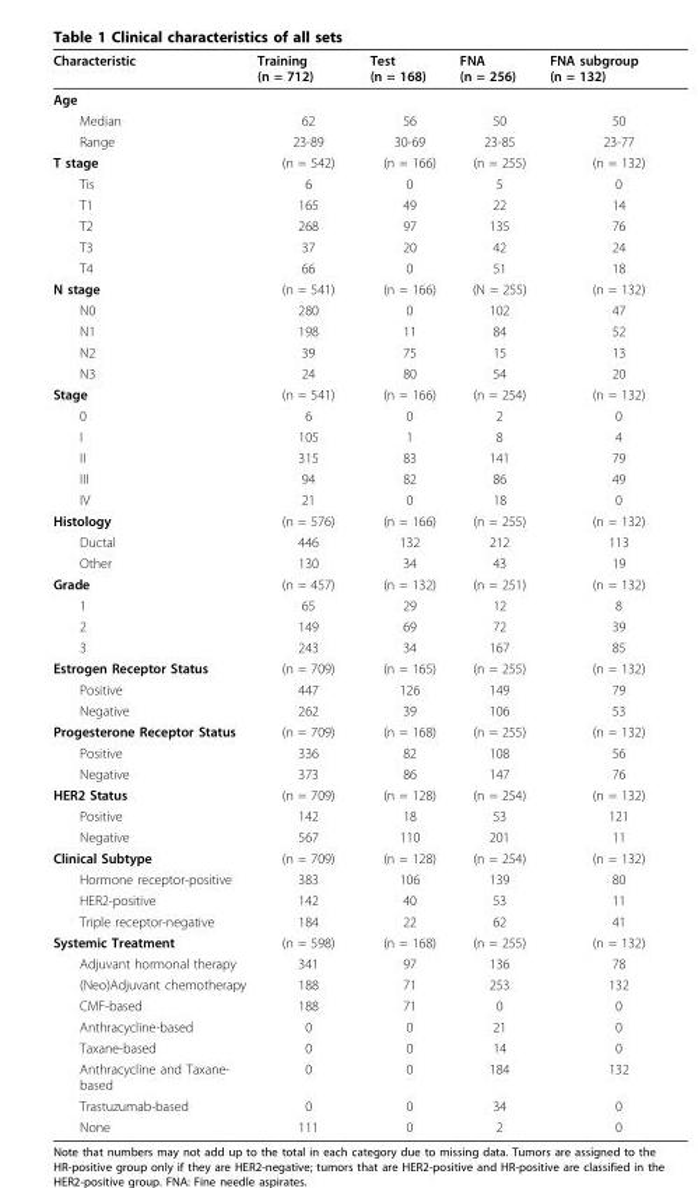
<table><thead><tr><td>Characteristic</td><td>Training (n = 712)</td><td>Test (n = 168)</td><td>FNA (n = 256)</td><td>FNA subgroup (n = 132)</td></tr></thead><tbody><tr><td colspan="5">Age</td></tr><tr><td>Median</td><td>62</td><td>56</td><td>50</td><td>50</td></tr><tr><td>Range</td><td>23-89</td><td>30-69</td><td>23-85</td><td>23-77</td></tr><tr><td>T stage</td><td>(n = 542)</td><td>(n = 166)</td><td>(n = 255)</td><td>(n = 132)</td></tr><tr><td>Tis</td><td>6</td><td>0</td><td>5</td><td>0</td></tr><tr><td>T1</td><td>165</td><td>49</td><td>22</td><td>14</td></tr><tr><td>T2</td><td>268</td><td>97</td><td>135</td><td>76</td></tr><tr><td>T3</td><td>37</td><td>20</td><td>42</td><td>24</td></tr><tr><td>T4</td><td>66</td><td>0</td><td>51</td><td>18</td></tr><tr><td>N stage</td><td>(n = 541)</td><td>(n = 166)</td><td>(N = 255)</td><td>(n = 132)</td></tr><tr><td>N0</td><td>280</td><td>0</td><td>102</td><td>47</td></tr><tr><td>N1</td><td>198</td><td>11</td><td>84</td><td>52</td></tr><tr><td>N2</td><td>39</td><td>75</td><td>15</td><td>13</td></tr><tr><td>N3</td><td>24</td><td>80</td><td>54</td><td>20</td></tr><tr><td>Stage</td><td>(n = 541)</td><td>(n = 166)</td><td>(n = 254)</td><td>(n = 132)</td></tr><tr><td>0</td><td>6</td><td>0</td><td>2</td><td>0</td></tr><tr><td>I</td><td>105</td><td>1</td><td>8</td><td>4</td></tr><tr><td>II</td><td>315</td><td>83</td><td>141</td><td>79</td></tr><tr><td>III</td><td>94</td><td>82</td><td>86</td><td>49</td></tr><tr><td>IV</td><td>21</td><td>0</td><td>18</td><td>0</td></tr><tr><td>Histology</td><td>(n = 576)</td><td>(n = 166)</td><td>(n = 255)</td><td>(n = 132)</td></tr><tr><td>Ductal</td><td>446</td><td>132</td><td>212</td><td>113</td></tr><tr><td>Other</td><td>130</td><td>34</td><td>43</td><td>19</td></tr><tr><td>Grade</td><td>(n = 457)</td><td>(n = 132)</td><td>(n = 251)</td><td>(n = 132)</td></tr><tr><td>1</td><td>65</td><td>29</td><td>12</td><td>8</td></tr><tr><td>2</td><td>149</td><td>69</td><td>72</td><td>39</td></tr><tr><td>3</td><td>243</td><td>34</td><td>167</td><td>85</td></tr><tr><td>Estrogen Receptor Status</td><td>(n = 709)</td><td>(n = 165)</td><td>(n = 255)</td><td>(n = 132)</td></tr><tr><td>Positive</td><td>447</td><td>126</td><td>149</td><td>79</td></tr><tr><td>Negative</td><td>262</td><td>39</td><td>106</td><td>53</td></tr><tr><td>Progesterone Receptor Status</td><td>(n = 709)</td><td>(n = 168)</td><td>(n = 255)</td><td>(n = 132)</td></tr><tr><td>Positive</td><td>336</td><td>82</td><td>108</td><td>56</td></tr><tr><td>Negative</td><td>373</td><td>86</td><td>147</td><td>76</td></tr><tr><td>HER2 Status</td><td>(n = 709)</td><td>(n = 128)</td><td>(n = 254)</td><td>(n = 132)</td></tr><tr><td>Positive</td><td>142</td><td>18</td><td>53</td><td>121</td></tr><tr><td>Negative</td><td>567</td><td>110</td><td>201</td><td>11</td></tr><tr><td>Clinical Subtype</td><td>(n = 709)</td><td>(n = 128)</td><td>(n = 254)</td><td>(n = 132)</td></tr><tr><td>Hormone receptor-positive</td><td>383</td><td>106</td><td>139</td><td>80</td></tr><tr><td>HER2-positive</td><td>142</td><td>40</td><td>53</td><td>11</td></tr><tr><td>Triple receptor-negative</td><td>184</td><td>22</td><td>62</td><td>41</td></tr><tr><td>Systemic Treatment</td><td>(n = 598)</td><td>(n = 168)</td><td>(n = 255)</td><td>(n = 132)</td></tr><tr><td>Adjuvant hormonal therapy</td><td>341</td><td>97</td><td>136</td><td>78</td></tr><tr><td>(Neo)Adjuvant chemotherapy</td><td>188</td><td>71</td><td>253</td><td>132</td></tr><tr><td>CMF-based</td><td>188</td><td>71</td><td>0</td><td>0</td></tr><tr><td>Anthracycline-based</td><td>0</td><td>0</td><td>21</td><td>0</td></tr><tr><td>Taxane-based</td><td>0</td><td>0</td><td>14</td><td>0</td></tr><tr><td>Anthracycline and Taxane- based</td><td>0</td><td>0</td><td>184</td><td>132</td></tr><tr><td>Trastuzumab-based</td><td>0</td><td>0</td><td>34</td><td>0</td></tr><tr><td>None</td><td>111</td><td>0</td><td>2</td><td>0</td></tr></tbody></table>